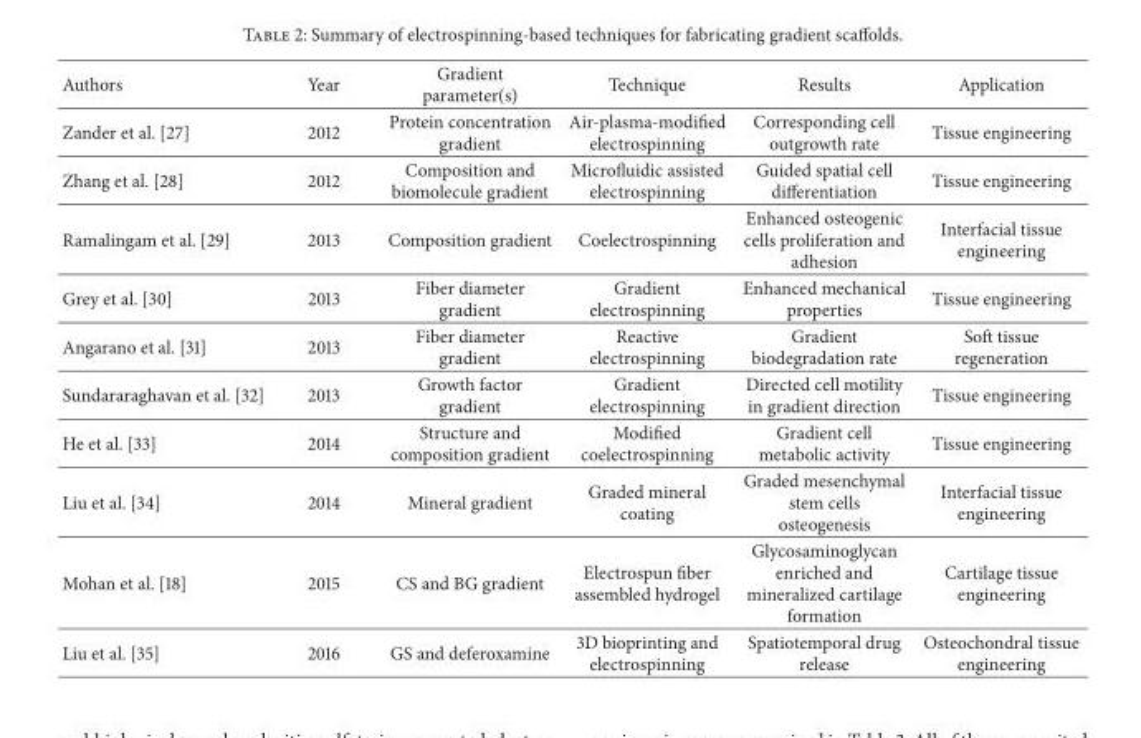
<table><thead><tr><td>Authors</td><td>Year</td><td>Gradient parameter(s)</td><td>Technique</td><td>Results</td><td>Application</td></tr></thead><tbody><tr><td>Zander et al. [27]</td><td>2012</td><td>Protein concentration gradient</td><td>Air-plasma-modified electrospinning</td><td>Corresponding cell outgrowth rate</td><td>Tissue engineering</td></tr><tr><td>Zhang et al. [28]</td><td>2012</td><td>Composition and biomolecule gradient</td><td>Microfluidic assisted electrospinning</td><td>Guided spatial cell differentiation</td><td>Tissue engineering</td></tr><tr><td>Ramalingam et al. [29]</td><td>2013</td><td>Composition gradient</td><td>Coelectrospinning</td><td>Enhanced osteogenic cells proliferation and adhesion</td><td>Interfacial tissue engineering</td></tr><tr><td>Grey et al. [30]</td><td>2013</td><td>Fiber diameter gradient</td><td>Gradient electrospinning</td><td>Enhanced mechanical properties</td><td>Tissue engineering</td></tr><tr><td>Angarano et al. [31]</td><td>2013</td><td>Fiber diameter gradient</td><td>Reactive electrospinning</td><td>Gradient biodegradation rate</td><td>Soft tissue regeneration</td></tr><tr><td>Sundararaghavan et al. [32]</td><td>2013</td><td>Growth factor gradient</td><td>Gradient electrospinning</td><td>Directed cell motility in gradient direction</td><td>Tissue engineering</td></tr><tr><td>He et al. [33]</td><td>2014</td><td>Structure and composition gradient</td><td>Modified coelectrospinning</td><td>Gradient cell metabolic activity</td><td>Tissue engineering</td></tr><tr><td>Liu et al. [34]</td><td>2014</td><td>Mineral gradient</td><td>Graded mineral coating</td><td>Graded mesenchymal stem cells osteogenesis</td><td>Interfacial tissue engineering</td></tr><tr><td>Mohan et al. [18]</td><td>2015</td><td>CS and BG gradient</td><td>Electrospun fiber assembled hydrogel</td><td>Glycosaminoglycan enriched and mineralized cartilage formation</td><td>Cartilage tissue engineering</td></tr><tr><td>Liu et al. [35]</td><td>2016</td><td>GS and deferoxamine</td><td>3D bioprinting and electrospinning</td><td>Spatiotemporal drug release</td><td>Osteochondral tissue engineering</td></tr></tbody></table>